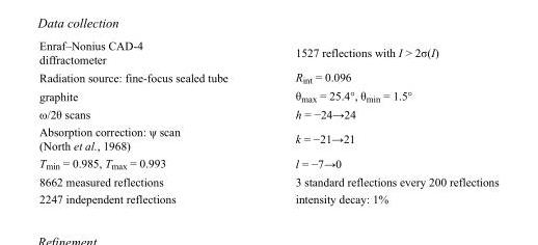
<table><tbody><tr><td>Enraf–Nonius CAD-4 diffractometer</td><td>1527 reflections with I &gt; 2σ(I)</td></tr><tr><td>Radiation source: fine-focus sealed tube</td><td>R<sub>int</sub> = 0.096</td></tr><tr><td>graphite</td><td>θ<sub>max</sub> = 25.4°, θ<sub>min</sub> = 1.5°</td></tr><tr><td>ω/2θ scans</td><td>h = −24→24</td></tr><tr><td>Absorption correction: ψ scan (North et al., 1968)</td><td>k = −21→21</td></tr><tr><td>T<sub>min</sub> = 0.985, T<sub>max</sub> = 0.993</td><td>l = −7→0</td></tr><tr><td>8662 measured reflections</td><td>3 standard reflections every 200 reflections</td></tr><tr><td>2247 independent reflections</td><td>intensity decay: 1%</td></tr></tbody></table>